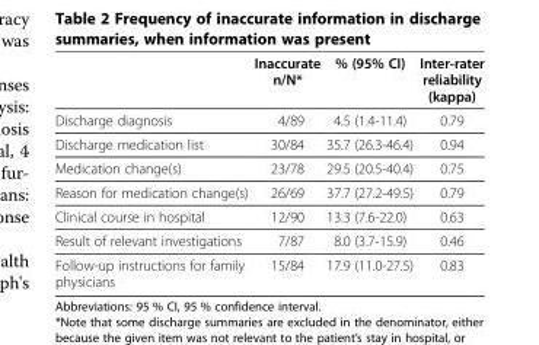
<table><thead><tr><td></td><td>Inaccurate n/N*</td><td>% (95% CI)</td><td>Inter-rater reliability (kappa)</td></tr></thead><tbody><tr><td>Discharge diagnosis</td><td>4/89</td><td>4.5 (1.4-11.4)</td><td>0.79</td></tr><tr><td>Discharge medication list</td><td>30/84</td><td>35.7 (26.3-46.4)</td><td>0.94</td></tr><tr><td>Medication change(s)</td><td>23/78</td><td>29.5 (20.5-40.4)</td><td>0.75</td></tr><tr><td>Reason for medication change(s)</td><td>26/69</td><td>37.7 (27.2-49.5)</td><td>0.79</td></tr><tr><td>Clinical course in hospital</td><td>12/90</td><td>13.3 (7.6-22.0)</td><td>0.63</td></tr><tr><td>Result of relevant investigations</td><td>7/87</td><td>8.0 (3.7-15.9)</td><td>0.46</td></tr><tr><td>Follow-up instructions for family physicians</td><td>15/84</td><td>17.9 (11.0-27.5)</td><td>0.83</td></tr></tbody></table>